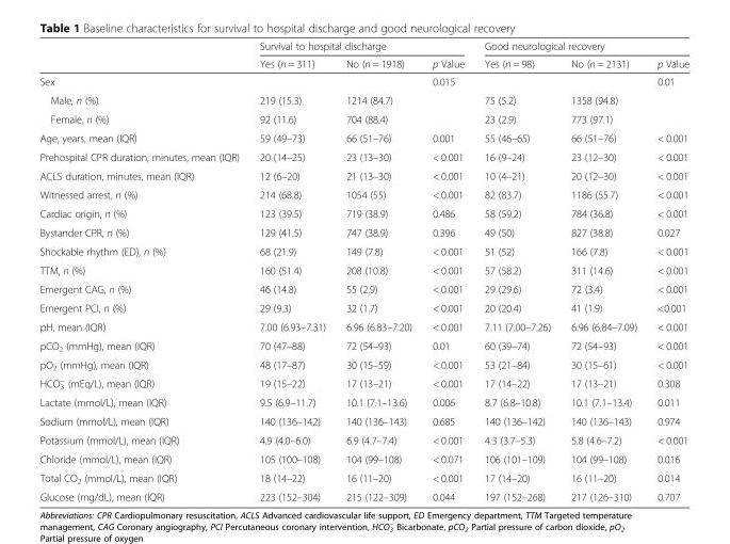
<table><thead><tr><td rowspan="2"></td><td colspan="3">Survival to hospital discharge</td><td colspan="3">Good neurological recovery</td></tr><tr><td>Yes (n = 311)</td><td>No (n = 1918)</td><td>p Value</td><td>Yes (n = 98)</td><td>No (n = 2131)</td><td>p Value</td></tr></thead><tbody><tr><td>Sex</td><td></td><td></td><td>0.015</td><td></td><td></td><td>0.01</td></tr><tr><td>Male, n (%)</td><td>219 (15.3)</td><td>1214 (84.7)</td><td></td><td>75 (5.2)</td><td>1358 (94.8)</td><td rowspan="2"></td></tr><tr><td>Female, n (%)</td><td>92 (11.6)</td><td>704 (88.4)</td><td></td><td>23 (2.9)</td><td>773 (97.1)</td></tr><tr><td>Age, years, mean (IQR)</td><td>59 (49–73)</td><td>66 (51–76)</td><td>0.001</td><td>55 (46–65)</td><td>66 (51–76)</td><td>&lt; 0.001</td></tr><tr><td>Prehospital CPR duration, minutes, mean (IQR)</td><td>20 (14–25)</td><td>23 (13–30)</td><td>&lt; 0.001</td><td>16 (9–24)</td><td>23 (12–30)</td><td>&lt; 0.001</td></tr><tr><td>ACLS duration, minutes, mean (IQR)</td><td>12 (6–20)</td><td>21 (13–30)</td><td>&lt; 0.001</td><td>10 (4–21)</td><td>20 (12–30)</td><td>&lt; 0.001</td></tr><tr><td>Witnessed arrest, n (%)</td><td>214 (68.8)</td><td>1054 (55)</td><td>&lt; 0.001</td><td>82 (83.7)</td><td>1186 (55.7)</td><td>&lt; 0.001</td></tr><tr><td>Cardiac origin, n (%)</td><td>123 (39.5)</td><td>719 (38.9)</td><td>0.486</td><td>58 (59.2)</td><td>784 (36.8)</td><td>&lt; 0.001</td></tr><tr><td>Bystander CPR, n (%)</td><td>129 (41.5)</td><td>747 (38.9)</td><td>0.396</td><td>49 (50)</td><td>827 (38.8)</td><td>0.027</td></tr><tr><td>Shockable rhythm (ED), n (%)</td><td>68 (21.9)</td><td>149 (7.8)</td><td>&lt; 0.001</td><td>51 (52)</td><td>166 (7.8)</td><td>&lt; 0.001</td></tr><tr><td>TTM, n (%)</td><td>160 (51.4)</td><td>208 (10.8)</td><td>&lt; 0.001</td><td>57 (58.2)</td><td>311 (14.6)</td><td>&lt; 0.001</td></tr><tr><td>Emergent CAG, n (%)</td><td>46 (14.8)</td><td>55 (2.9)</td><td>&lt; 0.001</td><td>29 (29.6)</td><td>72 (3.4)</td><td>&lt; 0.001</td></tr><tr><td>Emergent PCI, n (%)</td><td>29 (9.3)</td><td>32 (1.7)</td><td>&lt; 0.001</td><td>20 (20.4)</td><td>41 (1.9)</td><td>&lt;0.001</td></tr><tr><td>pH, mean (IQR)</td><td>7.00 (6.93–7.31)</td><td>6.96 (6.83–7.20)</td><td>&lt; 0.001</td><td>7.11 (7.00–7.26)</td><td>6.96 (6.84–7.09)</td><td>&lt; 0.001</td></tr><tr><td>pCO<sub>2</sub> (mmHg), mean (IQR)</td><td>70 (47–88)</td><td>72 (54–93)</td><td>0.01</td><td>60 (39–74)</td><td>72 (54–93)</td><td>&lt; 0.001</td></tr><tr><td>pO<sub>2</sub> (mmHg), mean (IQR)</td><td>48 (17–87)</td><td>30 (15–59)</td><td>&lt; 0.001</td><td>53 (21–84)</td><td>30 (15–61)</td><td>&lt; 0.001</td></tr><tr><td>HCO<sub>3</sub> <sup>−</sup> (mEq/L), mean (IQR)</td><td>19 (15–22)</td><td>17 (13–21)</td><td>&lt; 0.001</td><td>17 (14–22)</td><td>17 (13–21)</td><td>0.308</td></tr><tr><td>Lactate (mmol/L), mean (IQR)</td><td>9.5 (6.9–11.7)</td><td>10.1 (7.1–13.6)</td><td>0.006</td><td>8.7 (6.8–10.8)</td><td>10.1 (7.1–13.4)</td><td>0.011</td></tr><tr><td>Sodium (mmol/L), mean (IQR)</td><td>140 (136–142)</td><td>140 (136–143)</td><td>0.685</td><td>140 (136–142)</td><td>140 (136–143)</td><td>0.974</td></tr><tr><td>Potassium (mmol/L), mean (IQR)</td><td>4.9 (4.0–6.0)</td><td>6.9 (4.7–7.4)</td><td>&lt; 0.001</td><td>4.3 (3.7–5.3)</td><td>5.8 (4.6–7.2)</td><td>&lt; 0.001</td></tr><tr><td>Chloride (mmol/L), mean (IQR)</td><td>105 (100–108)</td><td>104 (99–108)</td><td>&lt; 0.071</td><td>106 (101–109)</td><td>104 (99–108)</td><td>0.016</td></tr><tr><td>Total CO<sub>2</sub> (mmol/L), mean (IQR)</td><td>18 (14–22)</td><td>16 (11–20)</td><td>&lt; 0.001</td><td>17 (14–20)</td><td>16 (11–20)</td><td>0.014</td></tr><tr><td>Glucose (mg/dL), mean (IQR)</td><td>223 (152–304)</td><td>215 (122–309)</td><td>0.044</td><td>197 (152–268)</td><td>217 (126–310)</td><td>0.707</td></tr></tbody></table>